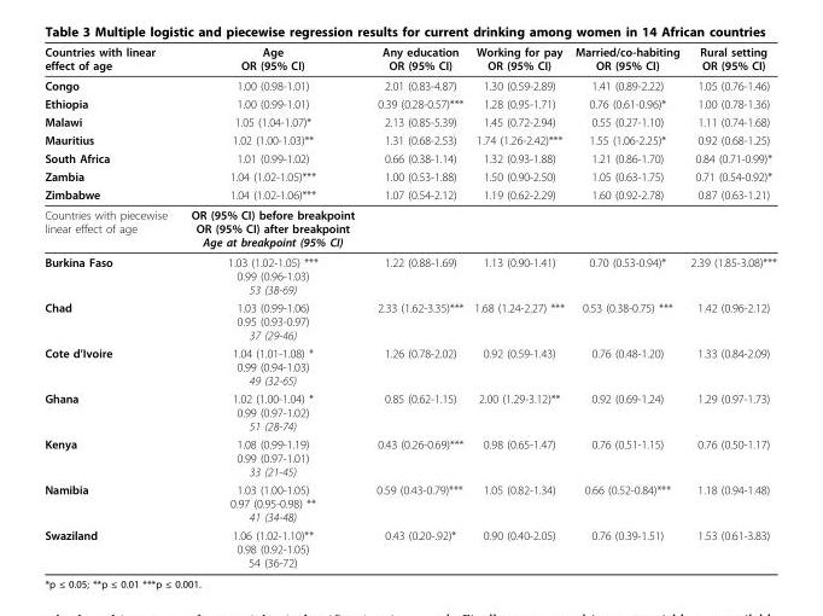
<table><thead><tr><td>Countries with linear effect of age</td><td>Age OR (95% CI)</td><td>Any education OR (95% CI)</td><td>Working for pay OR (95% CI)</td><td>Married/co-habiting OR (95% CI)</td><td>Rural setting OR (95% CI)</td></tr></thead><tbody><tr><td>Congo</td><td>1.00 (0.98-1.01)</td><td>2.01 (0.83-4.87)</td><td>1.30 (0.59-2.89)</td><td>1.41 (0.89-2.22)</td><td>1.05 (0.76-1.46)</td></tr><tr><td>Ethiopia</td><td>1.00 (0.99-1.01)</td><td>0.39 (0.28-0.57)***</td><td>1.28 (0.95-1.71)</td><td>0.76 (0.61-0.96)*</td><td>1.00 (0.78-1.36)</td></tr><tr><td>Malawi</td><td>1.05 (1.04-1.07)*</td><td>2.13 (0.85-5.39)</td><td>1.45 (0.72-2.94)</td><td>0.55 (0.27-1.10)</td><td>1.11 (0.74-1.68)</td></tr><tr><td>Mauritius</td><td>1.02 (1.00-1.03)**</td><td>1.31 (0.68-2.53)</td><td>1.74 (1.26-2.42)***</td><td>1.55 (1.06-2.25)*</td><td>0.92 (0.68-1.25)</td></tr><tr><td>South Africa</td><td>1.01 (0.99-1.02)</td><td>0.66 (0.38-1.14)</td><td>1.32 (0.93-1.88)</td><td>1.21 (0.86-1.70)</td><td>0.84 (0.71-0.99)*</td></tr><tr><td>Zambia</td><td>1.04 (1.02-1.05)***</td><td>1.00 (0.53-1.88)</td><td>1.50 (0.90-2.50)</td><td>1.05 (0.63-1.75)</td><td>0.71 (0.54-0.92)*</td></tr><tr><td>Zimbabwe</td><td>1.04 (1.02-1.06)***</td><td>1.07 (0.54-2.12)</td><td>1.19 (0.62-2.29)</td><td>1.60 (0.92-2.78)</td><td>0.87 (0.63-1.21)</td></tr><tr><td>Countries with piecewise linear effect of age</td><td>OR (95% CI) before breakpoint OR (95% CI) after breakpoint Age at breakpoint (95% CI)</td><td></td><td></td><td></td><td></td></tr><tr><td>Burkina Faso</td><td>1.03 (1.02-1.05) *** 0.99 (0.96-1.03) 53 (38-69)</td><td>1.22 (0.88-1.69)</td><td>1.13 (0.90-1.41)</td><td>0.70 (0.53-0.94)*</td><td>2.39 (1.85-3.08)***</td></tr><tr><td>Chad</td><td>1.03 (0.99-1.06) 0.95 (0.93-0.97) 37 (29-46)</td><td>2.33 (1.62-3.35)***</td><td>1.68 (1.24-2.27) ***</td><td>0.53 (0.38-0.75) ***</td><td>1.42 (0.96-2.12)</td></tr><tr><td>Cote d’Ivoire</td><td>1.04 (1.01-1.08) * 0.99 (0.94-1.03) 49 (32-65)</td><td>1.26 (0.78-2.02)</td><td>0.92 (0.59-1.43)</td><td>0.76 (0.48-1.20)</td><td>1.33 (0.84-2.09)</td></tr><tr><td>Ghana</td><td>1.02 (1.00-1.04) * 0.99 (0.97-1.02) 51 (28-74)</td><td>0.85 (0.62-1.15)</td><td>2.00 (1.29-3.12)**</td><td>0.92 (0.69-1.24)</td><td>1.29 (0.97-1.73)</td></tr><tr><td>Kenya</td><td>1.08 (0.99-1.19) 0.99 (0.97-1.01) 33 (21-45)</td><td>0.43 (0.26-0.69)***</td><td>0.98 (0.65-1.47)</td><td>0.76 (0.51-1.15)</td><td>0.76 (0.50-1.17)</td></tr><tr><td>Namibia</td><td>1.03 (1.00-1.05) 0.97 (0.95-0.98) ** 41 (34-48)</td><td>0.59 (0.43-0.79)***</td><td>1.05 (0.82-1.34)</td><td>0.66 (0.52-0.84)***</td><td>1.18 (0.94-1.48)</td></tr><tr><td>Swaziland</td><td>1.06 (1.02-1.10)** 0.98 (0.92-1.05) 54 (36-72)</td><td>0.43 (0.20-.92)*</td><td>0.90 (0.40-2.05)</td><td>0.76 (0.39-1.51)</td><td>1.53 (0.61-3.83)</td></tr></tbody></table>